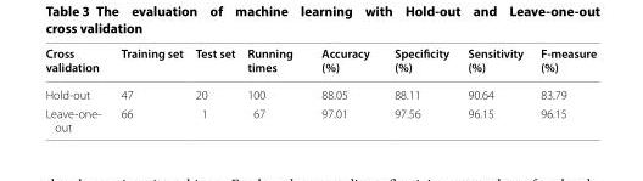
<table><thead><tr><td>Cross validation</td><td>Training set</td><td>Test set</td><td>Running times</td><td>Accuracy (%)</td><td>Specificity (%)</td><td>Sensitivity (%)</td><td>F-measure (%)</td></tr></thead><tbody><tr><td>Hold-out</td><td>47</td><td>20</td><td>100</td><td>88.05</td><td>88.11</td><td>90.64</td><td>83.79</td></tr><tr><td>Leave-one- out</td><td>66</td><td>1</td><td>67</td><td>97.01</td><td>97.56</td><td>96.15</td><td>96.15</td></tr></tbody></table>